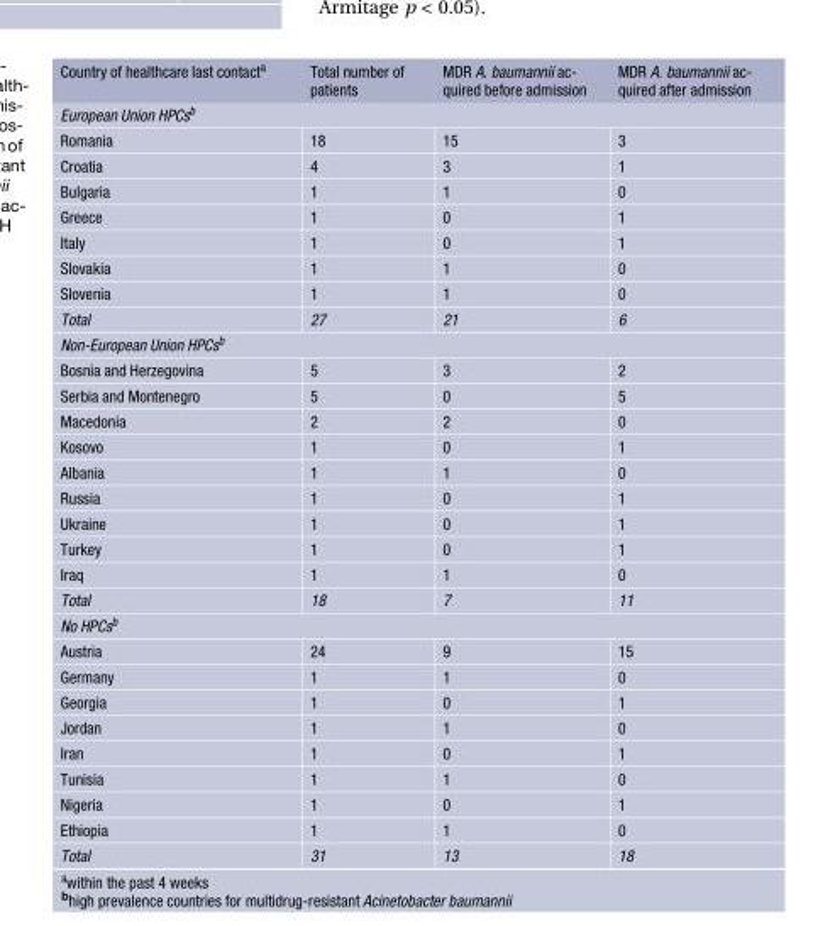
<table><thead><tr><td>Country of healthcare last contact<sup>a</sup></td><td>Total number of patients</td><td>MDR A. baumannii ac- quired before admission</td><td>MDR A. baumannii ac- quired after admission</td></tr></thead><tbody><tr><td colspan="4">European Union HPCs<sup>b</sup></td></tr><tr><td>Romania</td><td>18</td><td>15</td><td>3</td></tr><tr><td>Croatia</td><td>4</td><td>3</td><td>1</td></tr><tr><td>Bulgaria</td><td>1</td><td>1</td><td>0</td></tr><tr><td>Greece</td><td>1</td><td>0</td><td>1</td></tr><tr><td>Italy</td><td>1</td><td>0</td><td>1</td></tr><tr><td>Slovakia</td><td>1</td><td>1</td><td>0</td></tr><tr><td>Slovenia</td><td>1</td><td>1</td><td>0</td></tr><tr><td>Total</td><td>27</td><td>21</td><td>6</td></tr><tr><td colspan="4">Non-European Union HPCs<sup>b</sup></td></tr><tr><td>Bosnia and Herzegovina</td><td>5</td><td>3</td><td>2</td></tr><tr><td>Serbia and Montenegro</td><td>5</td><td>0</td><td>5</td></tr><tr><td>Macedonia</td><td>2</td><td>2</td><td>0</td></tr><tr><td>Kosovo</td><td>1</td><td>0</td><td>1</td></tr><tr><td>Albania</td><td>1</td><td>1</td><td>0</td></tr><tr><td>Russia</td><td>1</td><td>0</td><td>1</td></tr><tr><td>Ukraine</td><td>1</td><td>0</td><td>1</td></tr><tr><td>Turkey</td><td>1</td><td>0</td><td>1</td></tr><tr><td>Iraq</td><td>1</td><td>1</td><td>0</td></tr><tr><td>Total</td><td>18</td><td>7</td><td>11</td></tr><tr><td colspan="4">No HPCs<sup>b</sup></td></tr><tr><td>Austria</td><td>24</td><td>9</td><td>15</td></tr><tr><td>Germany</td><td>1</td><td>1</td><td>0</td></tr><tr><td>Georgia</td><td>1</td><td>0</td><td>1</td></tr><tr><td>Jordan</td><td>1</td><td>1</td><td>0</td></tr><tr><td>Iran</td><td>1</td><td>0</td><td>1</td></tr><tr><td>Tunisia</td><td>1</td><td>1</td><td>0</td></tr><tr><td>Nigeria</td><td>1</td><td>0</td><td>1</td></tr><tr><td>Ethiopia</td><td>1</td><td>1</td><td>0</td></tr><tr><td>Total</td><td>31</td><td>13</td><td>18</td></tr></tbody></table>